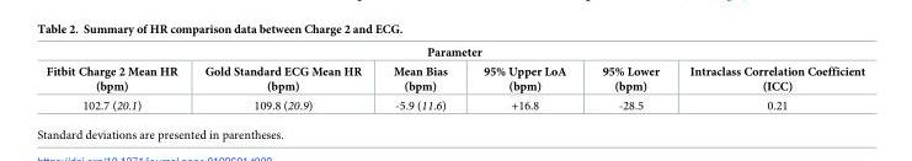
<table><thead><tr><td colspan="6">Parameter</td></tr><tr><td>Fitbit Charge 2 Mean HR (bpm)</td><td>Gold Standard ECG Mean HR (bpm)</td><td>Mean Bias (bpm)</td><td>95% Upper LoA (bpm)</td><td>95% Lower (bpm)</td><td>Intraclass Correlation Coefficient (ICC)</td></tr></thead><tbody><tr><td>102.7 (20.1)</td><td>109.8 (20.9)</td><td>-5.9 (11.6)</td><td>+16.8</td><td>-28.5</td><td>0.21</td></tr></tbody></table>